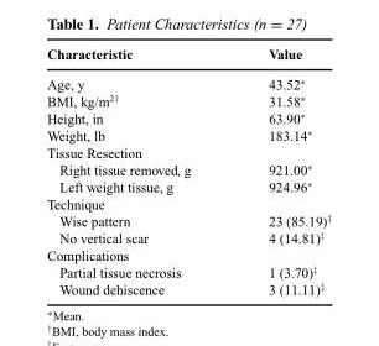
<table><thead><tr><td>Characteristic</td><td>Value</td></tr></thead><tbody><tr><td>Age, y</td><td>43.52∗</td></tr><tr><td>BMI, kg/m<sup>2†</sup></td><td>31.58∗</td></tr><tr><td>Height, in</td><td>63.90∗</td></tr><tr><td>Weight, lb</td><td>183.14∗</td></tr><tr><td colspan="2">Tissue Resection</td></tr><tr><td>Right tissue removed, g</td><td>921.00∗</td></tr><tr><td>Left weight tissue, g</td><td>924.96∗</td></tr><tr><td colspan="2">Technique</td></tr><tr><td>Wise pattern</td><td>23 (85.19)<sup>‡</sup></td></tr><tr><td>No vertical scar</td><td>4 (14.81)<sup>‡</sup></td></tr><tr><td colspan="2">Complications</td></tr><tr><td>Partial tissue necrosis</td><td>1 (3.70)<sup>‡</sup></td></tr><tr><td>Wound dehiscence</td><td>3 (11.11)<sup>‡</sup></td></tr></tbody></table>